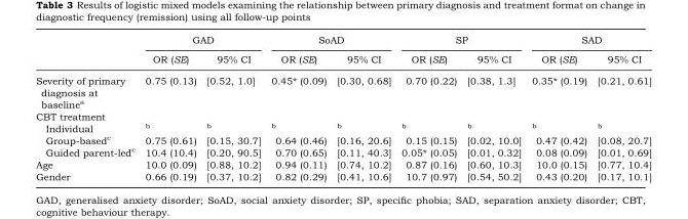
<table><thead><tr><td rowspan="2"></td><td colspan="2">GAD</td><td colspan="2">SoAD</td><td colspan="2">SP</td><td colspan="2">SAD</td></tr><tr><td>OR (SE)</td><td>95% CI</td><td>OR (SE)</td><td>95% CI</td><td>OR (SE)</td><td>95% CI</td><td>OR (SE)</td><td>95% CI</td></tr></thead><tbody><tr><td>Severity of primary diagnosis at baseline<sup>a</sup></td><td>0.75 (0.13)</td><td>[0.52, 1.0]</td><td>0.45* (0.09)</td><td>[0.30, 0.68]</td><td>0.70 (0.22)</td><td>[0.38, 1.3]</td><td>0.35* (0.19)</td><td>[0.21, 0.61]</td></tr><tr><td colspan="9">CBT treatment</td></tr><tr><td>Individual</td><td>b</td><td>b</td><td>b</td><td>b</td><td>b</td><td>b</td><td>b</td><td>b</td></tr><tr><td>Group-based<sup>c</sup></td><td>0.75 (0.61)</td><td>[0.15, 30.7]</td><td>0.64 (0.46)</td><td>[0.16, 20.6]</td><td>0.15 (0.15)</td><td>[0.02, 10.0]</td><td>0.47 (0.42)</td><td>[0.08, 20.7]</td></tr><tr><td>Guided parent-led<sup>c</sup></td><td>10.4 (10.4)</td><td>[0.20, 90.5]</td><td>0.70 (0.65)</td><td>[0.11, 40.3]</td><td>0.05* (0.05)</td><td>[0.01, 0.32]</td><td>0.08 (0.09)</td><td>[0.01, 0.69]</td></tr><tr><td>Age</td><td>10.0 (0.09)</td><td>[0.88, 10.2]</td><td>0.94 (0.11)</td><td>[0.74, 10.2]</td><td>0.87 (0.16)</td><td>[0.60, 10.3]</td><td>10.0 (0.15)</td><td>[0.77, 10.4]</td></tr><tr><td>Gender</td><td>0.66 (0.19)</td><td>[0.37, 10.2]</td><td>0.82 (0.29)</td><td>[0.41, 10.6]</td><td>10.7 (0.97)</td><td>[0.54, 50.2]</td><td>0.43 (0.20)</td><td>[0.17, 10.1]</td></tr></tbody></table>